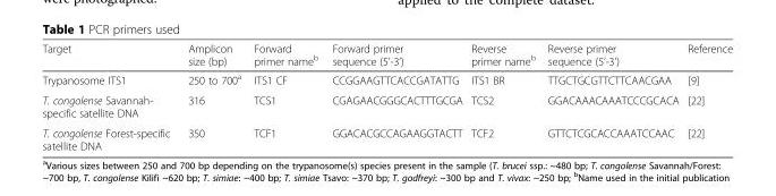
<table><thead><tr><td>Target</td><td>Amplicon size (bp)</td><td>Forward primer name<sup>b</sup></td><td>Forward primer sequence (5’-3’)</td><td>Reverse primer name<sup>b</sup></td><td>Reverse primer sequence (5’-3’)</td><td>Reference</td></tr></thead><tbody><tr><td>Trypanosome ITS1</td><td>250 to 700<sup>a</sup></td><td>ITS1 CF</td><td>CCGGAAGTTCACCGATATTG</td><td>ITS1 BR</td><td>TTGCTGCGTTCTTCAACGAA</td><td>[9]</td></tr><tr><td>T. congolense Savannah- specific satellite DNA</td><td>316</td><td>TCS1</td><td>CGAGAACGGGCACTTTGCGA</td><td>TCS2</td><td>GGACAAACAAATCCCGCACA</td><td>[22]</td></tr><tr><td>T. congolense Forest-specific satellite DNA</td><td>350</td><td>TCF1</td><td>GGACACGCCAGAAGGTACTT</td><td>TCF2</td><td>GTTCTCGCACCAAATCCAAC</td><td>[22]</td></tr></tbody></table>